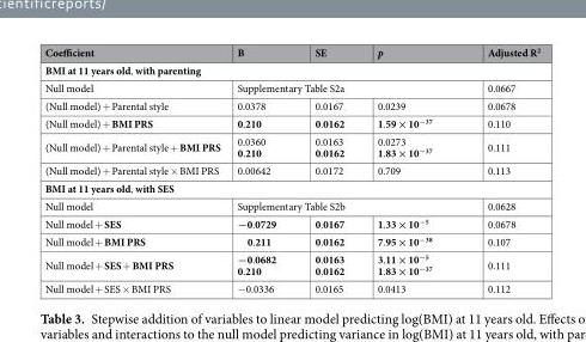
<table><thead><tr><td>Coefficient</td><td>B</td><td>SE</td><td>p</td><td>Adjusted R<sup>2</sup></td></tr></thead><tbody><tr><td colspan="5">BMI at 11 years old, with parenting</td></tr><tr><td>Null model</td><td colspan="3">Supplementary Table S2a</td><td>0.0667</td></tr><tr><td>(Null model) + Parental style</td><td>0.0378</td><td>0.0167</td><td>0.0239</td><td>0.0678</td></tr><tr><td>(Null model) + BMI PRS</td><td>0.210</td><td>0.0162</td><td>1.59 × 10<sup>−37</sup></td><td>0.110</td></tr><tr><td>(Null model) + Parental style + BMI PRS</td><td>0.0360 0.210</td><td>0.0163 0.0162</td><td>0.0273 1.83 × 10<sup>−37</sup></td><td>0.111</td></tr><tr><td>(Null model) + Parental style × BMI PRS</td><td>0.00642</td><td>0.0172</td><td>0.709</td><td>0.113</td></tr><tr><td colspan="5">BMI at 11 years old, with SES</td></tr><tr><td>Null model</td><td colspan="3">Supplementary Table S2b</td><td>0.0628</td></tr><tr><td>Null model + SES</td><td>−0.0729</td><td>0.0167</td><td>1.33 × 10<sup>−5</sup></td><td>0.0678</td></tr><tr><td>Null model + BMI PRS</td><td>0.211</td><td>0.0162</td><td>7.95 × 10<sup>−38</sup></td><td>0.107</td></tr><tr><td>Null model + SES + BMI PRS</td><td>−0.0682 0.210</td><td>0.0163 0.0162</td><td>3.11 × 10<sup>−5</sup> 1.83 × 10<sup>−37</sup></td><td>0.111</td></tr><tr><td>Null model + SES × BMI PRS</td><td>−0.0336</td><td>0.0165</td><td>0.0413</td><td>0.112</td></tr></tbody></table>